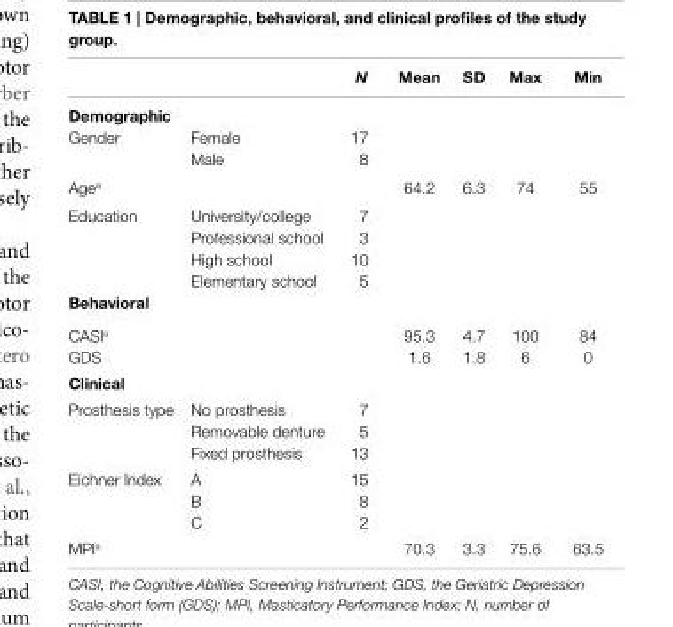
<table><thead><tr><td></td><td></td><td>N</td><td>Mean</td><td>sD</td><td>Max</td><td>Min</td></tr></thead><tbody><tr><td colspan="7">Demographic</td></tr><tr><td rowspan="2">Gender</td><td>Female</td><td>17</td><td></td><td></td><td></td><td></td></tr><tr><td>Male</td><td>8</td><td></td><td></td><td></td><td></td></tr><tr><td>Age<sup>a</sup></td><td></td><td></td><td>64.2</td><td>6.3</td><td>74</td><td>55</td></tr><tr><td rowspan="4">Education</td><td>University/college</td><td>7</td><td></td><td></td><td></td><td></td></tr><tr><td>Professional school</td><td>3</td><td></td><td></td><td></td><td></td></tr><tr><td>High school</td><td>10</td><td></td><td></td><td></td><td></td></tr><tr><td>Elementary school</td><td>5</td><td></td><td></td><td></td><td></td></tr><tr><td colspan="7">Behavioral</td></tr><tr><td>CASI<sup>a</sup></td><td></td><td></td><td>95.3</td><td>4.7</td><td>100</td><td>84</td></tr><tr><td>GDS</td><td></td><td></td><td>1.6</td><td>1.8</td><td>6</td><td>0</td></tr><tr><td colspan="7">clinical</td></tr><tr><td rowspan="3">Prosthesis type</td><td>No prosthesis</td><td>7</td><td></td><td></td><td></td><td></td></tr><tr><td>Removable denture</td><td>5</td><td></td><td></td><td></td><td></td></tr><tr><td>Fixed prosthesis</td><td>13</td><td></td><td></td><td></td><td></td></tr><tr><td rowspan="3">Eichner Index</td><td>A</td><td>15</td><td></td><td></td><td></td><td></td></tr><tr><td>B</td><td>8</td><td></td><td></td><td></td><td></td></tr><tr><td>C</td><td>2</td><td></td><td></td><td></td><td></td></tr><tr><td>MPI<sup>a</sup></td><td></td><td></td><td>70.3</td><td>3.3</td><td>75.6</td><td>63.5</td></tr></tbody></table>